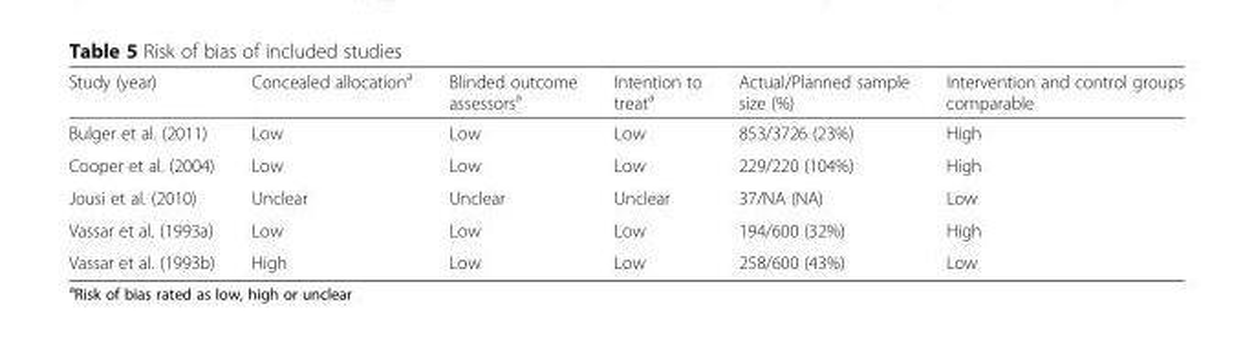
<table><thead><tr><td>Study (year)</td><td>Concealed allocation<sup>a</sup></td><td>Blinded outcome assessors<sup>a</sup></td><td>Intention to treat<sup>a</sup></td><td>Actual/Planned sample size (%)</td><td>Intervention and control groups comparable</td></tr></thead><tbody><tr><td>Bulger et al. (2011)</td><td>Low</td><td>Low</td><td>Low</td><td>853/3726 (23%)</td><td>High</td></tr><tr><td>Cooper et al. (2004)</td><td>Low</td><td>Low</td><td>Low</td><td>229/220 (104%)</td><td>High</td></tr><tr><td>Jousi et al. (2010)</td><td>Unclear</td><td>Unclear</td><td>Unclear</td><td>37/NA (NA)</td><td>Low</td></tr><tr><td>Vassar et al. (1993a)</td><td>Low</td><td>Low</td><td>Low</td><td>194/600 (32%)</td><td>High</td></tr><tr><td>Vassar et al. (1993b)</td><td>High</td><td>Low</td><td>Low</td><td>258/600 (43%)</td><td>Low</td></tr></tbody></table>